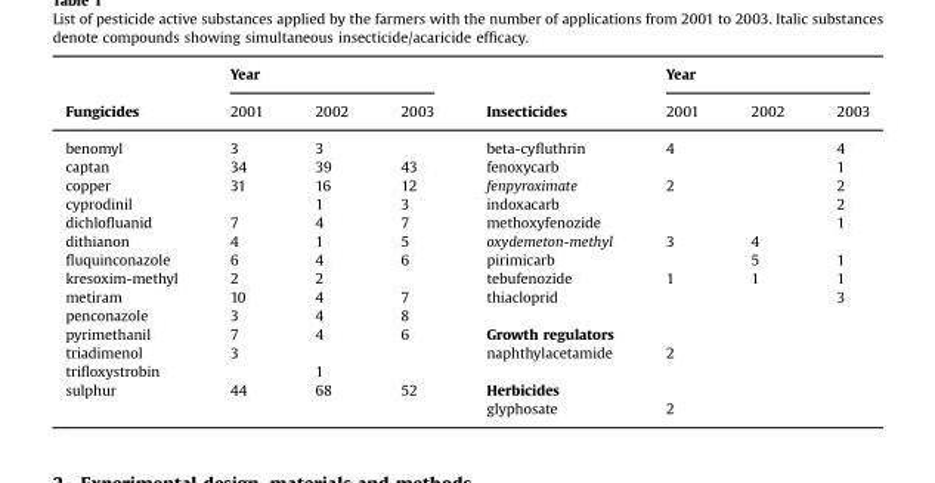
<table><thead><tr><td rowspan="2">Fungicides</td><td colspan="3">Year</td><td rowspan="2">Insecticides</td><td colspan="3">Year</td></tr><tr><td>2001</td><td>2002</td><td>2003</td><td>2001</td><td>2002</td><td>2003</td></tr></thead><tbody><tr><td>benomyl</td><td>3</td><td>3</td><td></td><td>beta-cyfluthrin</td><td>4</td><td></td><td>4</td></tr><tr><td>captan</td><td>34</td><td>39</td><td>43</td><td>fenoxycarb</td><td></td><td></td><td>1</td></tr><tr><td>copper</td><td>31</td><td>16</td><td>12</td><td>fenpyroximate</td><td>2</td><td></td><td>2</td></tr><tr><td>cyprodinil</td><td></td><td>1</td><td>3</td><td>indoxacarb</td><td></td><td></td><td>2</td></tr><tr><td>dichlofluanid</td><td>7</td><td>4</td><td>7</td><td>methoxyfenozide</td><td></td><td></td><td>1</td></tr><tr><td>dithianon</td><td>4</td><td>1</td><td>5</td><td>oxydemeton-methyl</td><td>3</td><td>4</td><td></td></tr><tr><td>fluquinconazole</td><td>6</td><td>4</td><td>6</td><td>pirimicarb</td><td></td><td>5</td><td>1</td></tr><tr><td>kresoxim-methyl</td><td>2</td><td>2</td><td></td><td>tebufenozide</td><td>1</td><td>1</td><td>1</td></tr><tr><td>metiram</td><td>10</td><td>4</td><td>7</td><td>thiacloprid</td><td></td><td></td><td>3</td></tr><tr><td>penconazole</td><td>3</td><td>4</td><td>8</td><td></td><td></td><td></td><td></td></tr><tr><td>pyrimethanil</td><td>7</td><td>4</td><td>6</td><td>Growth regulators</td><td></td><td></td><td></td></tr><tr><td>triadimenol</td><td>3</td><td></td><td></td><td>naphthylacetamide</td><td>2</td><td></td><td></td></tr><tr><td>trifloxystrobin</td><td></td><td>1</td><td></td><td></td><td></td><td></td><td></td></tr><tr><td rowspan="2">sulphur</td><td>44</td><td>68</td><td>52</td><td>Herbicides</td><td></td><td></td><td></td></tr><tr><td></td><td></td><td></td><td>glyphosate</td><td>2</td><td></td><td></td></tr></tbody></table>